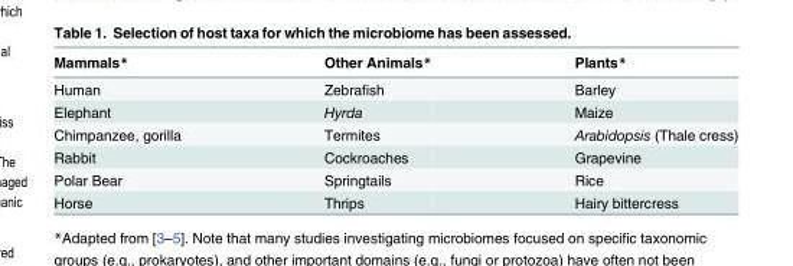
<table><thead><tr><td>Mammals*</td><td>Other Animals*</td><td>Plants*</td></tr></thead><tbody><tr><td>Human</td><td>Zebrafish</td><td>Barley</td></tr><tr><td>Elephant</td><td>Hyrda</td><td>Maize</td></tr><tr><td>Chimpanzee, gorilla</td><td>Termites</td><td>Arabidopsis (Thale cress)</td></tr><tr><td>Rabbit</td><td>Cockroaches</td><td>Grapevine</td></tr><tr><td>Polar Bear</td><td>Springtails</td><td>Rice</td></tr><tr><td>Horse</td><td>Thrips</td><td>Hairy bittercress</td></tr></tbody></table>